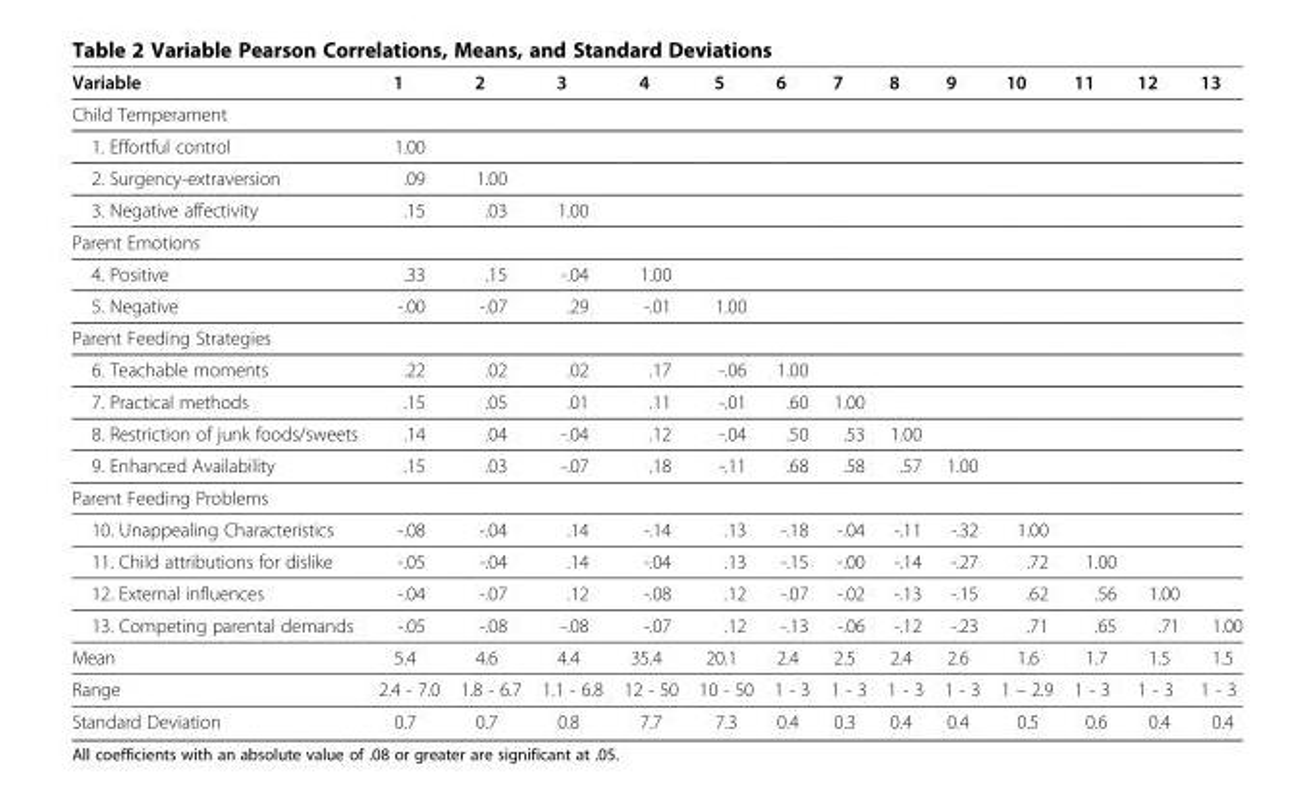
<table><thead><tr><td>Variable</td><td>1</td><td>2</td><td>3</td><td>4</td><td>5</td><td>6</td><td>7</td><td>8</td><td>9</td><td>10</td><td>11</td><td>12</td><td>13</td></tr></thead><tbody><tr><td colspan="14">Child Temperament</td></tr><tr><td>1. Effortful control</td><td>1.00</td><td></td><td></td><td></td><td></td><td></td><td></td><td></td><td></td><td></td><td></td><td></td><td></td></tr><tr><td>2. Surgency-extraversion</td><td>.09</td><td>1.00</td><td></td><td></td><td></td><td></td><td></td><td></td><td></td><td></td><td></td><td></td><td></td></tr><tr><td>3. Negative affectivity</td><td>.15</td><td>.03</td><td>1.00</td><td></td><td></td><td></td><td></td><td></td><td></td><td></td><td></td><td></td><td></td></tr><tr><td colspan="14">Parent Emotions</td></tr><tr><td>4. Positive</td><td>.33</td><td>.15</td><td>-.04</td><td>1.00</td><td></td><td></td><td></td><td></td><td></td><td></td><td></td><td></td><td></td></tr><tr><td>5. Negative</td><td>-.00</td><td>-.07</td><td>.29</td><td>-.01</td><td>1.00</td><td></td><td></td><td></td><td></td><td></td><td></td><td></td><td></td></tr><tr><td colspan="14">Parent Feeding Strategies</td></tr><tr><td>6. Teachable moments</td><td>.22</td><td>.02</td><td>.02</td><td>.17</td><td>-.06</td><td>1.00</td><td></td><td></td><td></td><td></td><td></td><td></td><td></td></tr><tr><td>7. Practical methods</td><td>.15</td><td>.05</td><td>.01</td><td>.11</td><td>-.01</td><td>.60</td><td>1.00</td><td></td><td></td><td></td><td></td><td></td><td></td></tr><tr><td>8. Restriction of junk foods/sweets</td><td>.14</td><td>.04</td><td>-.04</td><td>.12</td><td>-.04</td><td>.50</td><td>.53</td><td>1.00</td><td></td><td></td><td></td><td></td><td></td></tr><tr><td>9. Enhanced Availability</td><td>.15</td><td>.03</td><td>-.07</td><td>.18</td><td>-.11</td><td>.68</td><td>.58</td><td>.57</td><td>1.00</td><td></td><td></td><td></td><td></td></tr><tr><td colspan="14">Parent Feeding Problems</td></tr><tr><td>10. Unappealing Characteristics</td><td>-.08</td><td>-.04</td><td>.14</td><td>-.14</td><td>.13</td><td>-.18</td><td>-.04</td><td>-.11</td><td>-.32</td><td>1.00</td><td></td><td></td><td></td></tr><tr><td>11. Child attributions for dislike</td><td>-.05</td><td>-.04</td><td>.14</td><td>-.04</td><td>.13</td><td>-.15</td><td>-.00</td><td>-.14</td><td>-.27</td><td>.72</td><td>1.00</td><td></td><td></td></tr><tr><td>12. External influences</td><td>-.04</td><td>-.07</td><td>.12</td><td>-.08</td><td>.12</td><td>-.07</td><td>-.02</td><td>-.13</td><td>-.15</td><td>.62</td><td>.56</td><td>1.00</td><td></td></tr><tr><td>13. Competing parental demands</td><td>-.05</td><td>-.08</td><td>-.08</td><td>-.07</td><td>.12</td><td>-.13</td><td>-.06</td><td>-.12</td><td>-.23</td><td>.71</td><td>.65</td><td>.71</td><td>1.00</td></tr><tr><td>Mean</td><td>5.4</td><td>4.6</td><td>4.4</td><td>35.4</td><td>20.1</td><td>2.4</td><td>2.5</td><td>2.4</td><td>2.6</td><td>1.6</td><td>1.7</td><td>1.5</td><td>1.5</td></tr><tr><td>Range</td><td>2.4 - 7.0</td><td>1.8 - 6.7</td><td>1.1 - 6.8</td><td>12 - 50</td><td>10 - 50</td><td>1 - 3</td><td>1 - 3</td><td>1 - 3</td><td>1 - 3</td><td>1 – 2.9</td><td>1 - 3</td><td>1 - 3</td><td>1 - 3</td></tr><tr><td>Standard Deviation</td><td>0.7</td><td>0.7</td><td>0.8</td><td>7.7</td><td>7.3</td><td>0.4</td><td>0.3</td><td>0.4</td><td>0.4</td><td>0.5</td><td>0.6</td><td>0.4</td><td>0.4</td></tr></tbody></table>